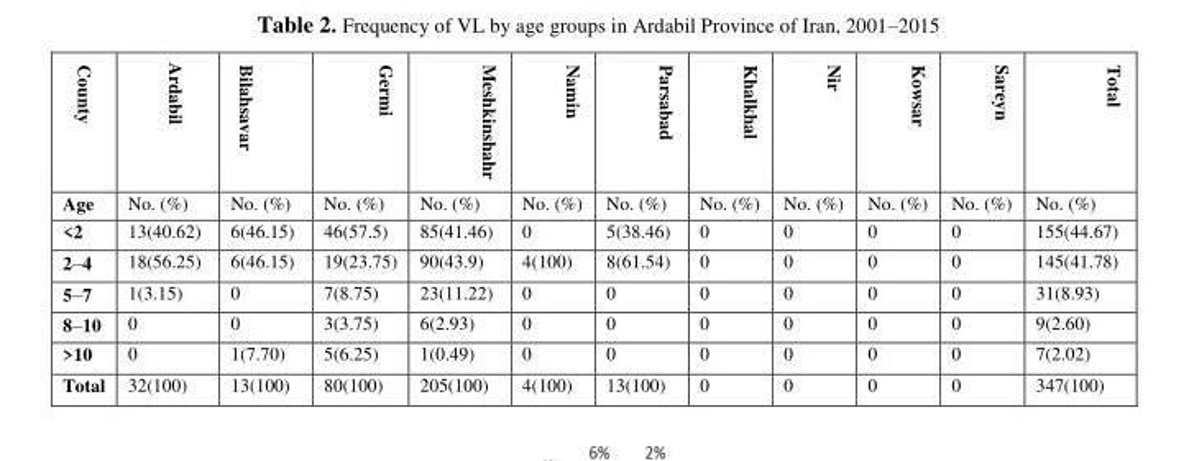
<table><thead><tr><td>County</td><td>Ardabil</td><td>Bilahsavar</td><td>Germi</td><td>Meshkinshahr</td><td>Namin</td><td>Parsabad</td><td>Khalkhal</td><td>Nir</td><td>Kowsar</td><td>Sareyn</td><td>Total</td></tr></thead><tbody><tr><td>Age</td><td>No. (%)</td><td>No. (%)</td><td>No. (%)</td><td>No. (%)</td><td>No. (%)</td><td>No. (%)</td><td>No. (%)</td><td>No. (%)</td><td>No. (%)</td><td>No. (%)</td><td>No. (%)</td></tr><tr><td>&lt;2</td><td>13(40.62)</td><td>6(46.15)</td><td>46(57.5)</td><td>85(41.46)</td><td>0</td><td>5(38.46)</td><td>0</td><td>0</td><td>0</td><td>0</td><td>155(44.67)</td></tr><tr><td>2–4</td><td>18(56.25)</td><td>6(46.15)</td><td>19(23.75)</td><td>90(43.9)</td><td>4(100)</td><td>8(61.54)</td><td>0</td><td>0</td><td>0</td><td>0</td><td>145(41.78)</td></tr><tr><td>5–7</td><td>1(3.15)</td><td>0</td><td>7(8.75)</td><td>23(11.22)</td><td>0</td><td>0</td><td>0</td><td>0</td><td>0</td><td>0</td><td>31(8.93)</td></tr><tr><td>8–10</td><td>0</td><td>0</td><td>3(3.75)</td><td>6(2.93)</td><td>0</td><td>0</td><td>0</td><td>0</td><td>0</td><td>0</td><td>9(2.60)</td></tr><tr><td>&gt;10</td><td>0</td><td>1(7.70)</td><td>5(6.25)</td><td>1(0.49)</td><td>0</td><td>0</td><td>0</td><td>0</td><td>0</td><td>0</td><td>7(2.02)</td></tr><tr><td>Total</td><td>32(100)</td><td>13(100)</td><td>80(100)</td><td>205(100)</td><td>4(100)</td><td>13(100)</td><td>0</td><td>0</td><td>0</td><td>0</td><td>347(100)</td></tr></tbody></table>